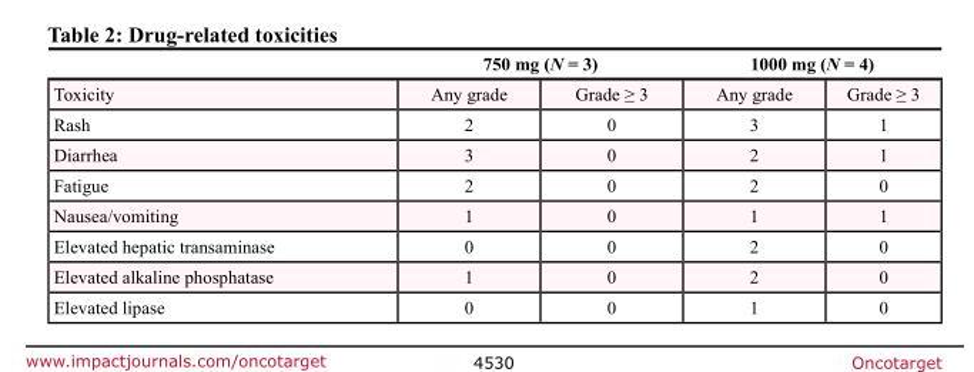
<table><thead><tr><td rowspan="2">Toxicity</td><td colspan="2">750 mg (N = 3)</td><td colspan="2">1000 mg (N = 4)</td></tr><tr><td>Any grade</td><td>Grade ≥ 3</td><td>Any grade</td><td>Grade ≥ 3</td></tr></thead><tbody><tr><td>Rash</td><td>2</td><td>0</td><td>3</td><td>1</td></tr><tr><td>Diarrhea</td><td>3</td><td>0</td><td>2</td><td>1</td></tr><tr><td>Fatigue</td><td>2</td><td>0</td><td>2</td><td>0</td></tr><tr><td>Nausea/vomiting</td><td>1</td><td>0</td><td>1</td><td>1</td></tr><tr><td>Elevated hepatic transaminase</td><td>0</td><td>0</td><td>2</td><td>0</td></tr><tr><td>Elevated alkaline phosphatase</td><td>1</td><td>0</td><td>2</td><td>0</td></tr><tr><td>Elevated lipase</td><td>0</td><td>0</td><td>1</td><td>0</td></tr></tbody></table>